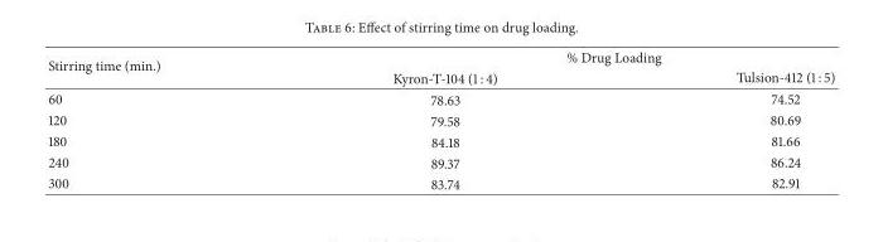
<table><thead><tr><td rowspan="2">Stirring time (min.)</td><td colspan="2">% Drug Loading</td></tr><tr><td>Kyron-T-104 (1 : 4)</td><td>Tulsion-412 (1 : 5)</td></tr></thead><tbody><tr><td>60</td><td>78.63</td><td>74.52</td></tr><tr><td>120</td><td>79.58</td><td>80.69</td></tr><tr><td>180</td><td>84.18</td><td>81.66</td></tr><tr><td>240</td><td>89.37</td><td>86.24</td></tr><tr><td>300</td><td>83.74</td><td>82.91</td></tr></tbody></table>